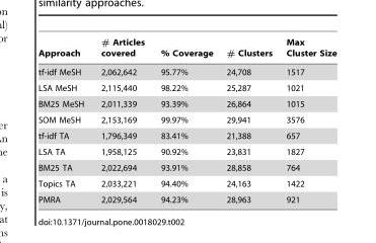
<table><thead><tr><td>Approach</td><td># Articles covered</td><td>% Coverage</td><td># Clusters</td><td>Max Cluster Size</td></tr></thead><tbody><tr><td>tf-idf MeSH</td><td>2,062,642</td><td>95.77%</td><td>24,708</td><td>1517</td></tr><tr><td>LSA MeSH</td><td>2,115,440</td><td>98.22%</td><td>25,287</td><td>1021</td></tr><tr><td>BM25 MeSH</td><td>2,011,339</td><td>93.39%</td><td>26,864</td><td>1015</td></tr><tr><td>SOM MeSH</td><td>2,153,169</td><td>99.97%</td><td>29,941</td><td>3576</td></tr><tr><td>tf-idf TA</td><td>1,796,349</td><td>83.41%</td><td>21,388</td><td>657</td></tr><tr><td>LSA TA</td><td>1,958,125</td><td>90.92%</td><td>23,831</td><td>1827</td></tr><tr><td>BM25 TA</td><td>2,022,694</td><td>93.91%</td><td>28,858</td><td>764</td></tr><tr><td>Topics TA</td><td>2,033,221</td><td>94.40%</td><td>24,163</td><td>1422</td></tr><tr><td>PMRA</td><td>2,029,564</td><td>94.23%</td><td>28,963</td><td>921</td></tr></tbody></table>